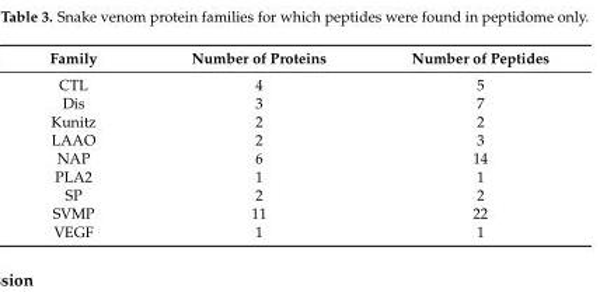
<table><thead><tr><td>Family</td><td>Number of Proteins</td><td>Number of Peptides</td></tr></thead><tbody><tr><td>CTL</td><td>4</td><td>5</td></tr><tr><td>Dis</td><td>3</td><td>7</td></tr><tr><td>Kunitz</td><td>2</td><td>2</td></tr><tr><td>LAAO</td><td>2</td><td>3</td></tr><tr><td>NAP</td><td>6</td><td>14</td></tr><tr><td>PLA2</td><td>1</td><td>1</td></tr><tr><td>SP</td><td>2</td><td>2</td></tr><tr><td>SVMP</td><td>11</td><td>22</td></tr><tr><td>VEGF</td><td>1</td><td>1</td></tr></tbody></table>